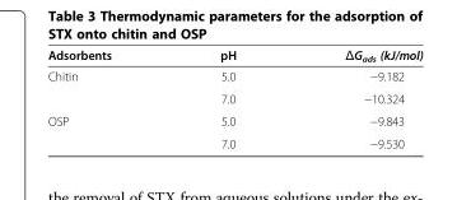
<table><thead><tr><td>Adsorbents</td><td>pH</td><td>ΔG<sub>ads</sub> (kJ/mol)</td></tr></thead><tbody><tr><td rowspan="2">Chitin</td><td>5.0</td><td>−9.182</td></tr><tr><td>7.0</td><td>−10.324</td></tr><tr><td rowspan="2">OSP</td><td>5.0</td><td>−9.843</td></tr><tr><td>7.0</td><td>−9.530</td></tr></tbody></table>